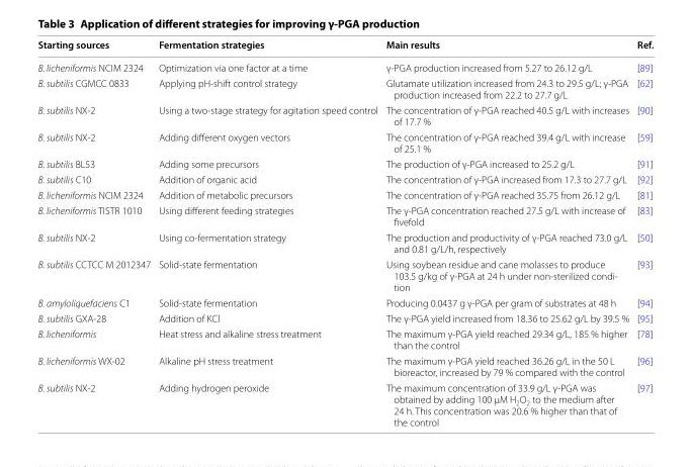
<table><thead><tr><td>Starting sources</td><td>Fermentation strategies</td><td>Main results</td><td>Ref.</td></tr></thead><tbody><tr><td>B. licheniformis NCIM 2324</td><td>Optimization via one factor at a time</td><td>γ-PGA production increased from 5.27 to 26.12 g/L</td><td>[89]</td></tr><tr><td>B. subtilis CGMCC 0833</td><td>Applying pH-shift control strategy</td><td>Glutamate utilization increased from 24.3 to 29.5 g/L; γ-PGA production increased from 22.2 to 27.7 g/L</td><td>[62]</td></tr><tr><td>B. subtilis NX-2</td><td>Using a two-stage strategy for agitation speed control</td><td>The concentration of γ-PGA reached 40.5 g/L with increases of 17.7 %</td><td>[90]</td></tr><tr><td>B. subtilis NX-2</td><td>Adding different oxygen vectors</td><td>The concentration of γ-PGA reached 39.4 g/L with increase of 25.1 %</td><td>[59]</td></tr><tr><td>B. subtilis BL53</td><td>Adding some precursors</td><td>The production of γ-PGA increased to 25.2 g/L</td><td>[91]</td></tr><tr><td>B. subtilis C10</td><td>Addition of organic acid</td><td>The concentration of γ-PGA increased from 17.3 to 27.7 g/L</td><td>[92]</td></tr><tr><td>B. licheniformis NCIM 2324</td><td>Addition of metabolic precursors</td><td>The concentration of γ-PGA reached 35.75 from 26.12 g/L</td><td>[81]</td></tr><tr><td>B. licheniformis TISTR 1010</td><td>Using different feeding strategies</td><td>The γ-PGA concentration reached 27.5 g/L with increase of fivefold</td><td>[83]</td></tr><tr><td>B. subtilis NX-2</td><td>Using co-fermentation strategy</td><td>The production and productivity of γ-PGA reached 73.0 g/L and 0.81 g/L/h, respectively</td><td>[50]</td></tr><tr><td>B. subtilis CCTCC M 2012347</td><td>Solid-state fermentation</td><td>Using soybean residue and cane molasses to produce 103.5 g/kg of γ-PGA at 24 h under non-sterilized condi- tion</td><td>[93]</td></tr><tr><td>B. amyloliquefaciens C1</td><td>Solid-state fermentation</td><td>Producing 0.0437 g γ-PGA per gram of substrates at 48 h</td><td>[94]</td></tr><tr><td>B. subtilis GXA-28</td><td>Addition of KCl</td><td>The γ-PGA yield increased from 18.36 to 25.62 g/L by 39.5 %</td><td>[95]</td></tr><tr><td>B. licheniformis</td><td>Heat stress and alkaline stress treatment</td><td>The maximum γ-PGA yield reached 29.34 g/L, 185 % higher than the control</td><td>[78]</td></tr><tr><td>B. licheniformis WX-02</td><td>Alkaline pH stress treatment</td><td>The maximum γ-PGA yield reached 36.26 g/L in the 50 L bioreactor, increased by 79 % compared with the control</td><td>[96]</td></tr><tr><td>B. subtilis NX-2</td><td>Adding hydrogen peroxide</td><td>The maximum concentration of 33.9 g/L γ-PGA was obtained by adding 100 µM H<sub>2</sub>O<sub>2</sub> to the medium after 24 h. This concentration was 20.6 % higher than that of the control</td><td>[97]</td></tr></tbody></table>